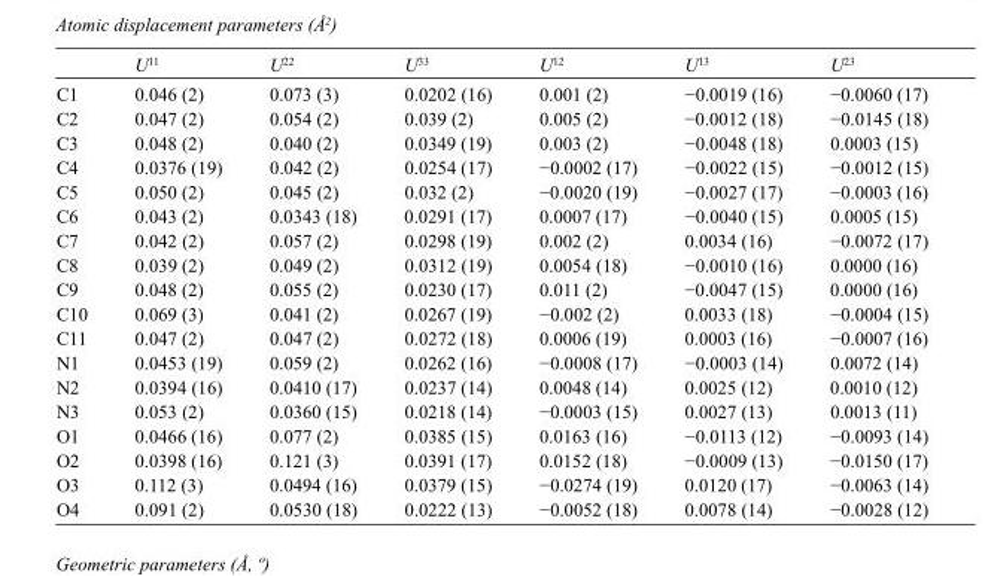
<table><thead><tr><td></td><td>U<sup>11</sup></td><td>U<sup>22</sup></td><td>U<sup>33</sup></td><td>U<sup>12</sup></td><td>U<sup>13</sup></td><td>U<sup>23</sup></td></tr></thead><tbody><tr><td>C1</td><td>0.046 (2)</td><td>0.073 (3)</td><td>0.0202 (16)</td><td>0.001 (2)</td><td>−0.0019 (16)</td><td>−0.0060 (17)</td></tr><tr><td>C2</td><td>0.047 (2)</td><td>0.054 (2)</td><td>0.039 (2)</td><td>0.005 (2)</td><td>−0.0012 (18)</td><td>−0.0145 (18)</td></tr><tr><td>C3</td><td>0.048 (2)</td><td>0.040 (2)</td><td>0.0349 (19)</td><td>0.003 (2)</td><td>−0.0048 (18)</td><td>0.0003 (15)</td></tr><tr><td>C4</td><td>0.0376 (19)</td><td>0.042 (2)</td><td>0.0254 (17)</td><td>−0.0002 (17)</td><td>−0.0022 (15)</td><td>−0.0012 (15)</td></tr><tr><td>C5</td><td>0.050 (2)</td><td>0.045 (2)</td><td>0.032 (2)</td><td>−0.0020 (19)</td><td>−0.0027 (17)</td><td>−0.0003 (16)</td></tr><tr><td>C6</td><td>0.043 (2)</td><td>0.0343 (18)</td><td>0.0291 (17)</td><td>0.0007 (17)</td><td>−0.0040 (15)</td><td>0.0005 (15)</td></tr><tr><td>C7</td><td>0.042 (2)</td><td>0.057 (2)</td><td>0.0298 (19)</td><td>0.002 (2)</td><td>0.0034 (16)</td><td>−0.0072 (17)</td></tr><tr><td>C8</td><td>0.039 (2)</td><td>0.049 (2)</td><td>0.0312 (19)</td><td>0.0054 (18)</td><td>−0.0010 (16)</td><td>0.0000 (16)</td></tr><tr><td>C9</td><td>0.048 (2)</td><td>0.055 (2)</td><td>0.0230 (17)</td><td>0.011 (2)</td><td>−0.0047 (15)</td><td>0.0000 (16)</td></tr><tr><td>C10</td><td>0.069 (3)</td><td>0.041 (2)</td><td>0.0267 (19)</td><td>−0.002 (2)</td><td>0.0033 (18)</td><td>−0.0004 (15)</td></tr><tr><td>C11</td><td>0.047 (2)</td><td>0.047 (2)</td><td>0.0272 (18)</td><td>0.0006 (19)</td><td>0.0003 (16)</td><td>−0.0007 (16)</td></tr><tr><td>N1</td><td>0.0453 (19)</td><td>0.059 (2)</td><td>0.0262 (16)</td><td>−0.0008 (17)</td><td>−0.0003 (14)</td><td>0.0072 (14)</td></tr><tr><td>N2</td><td>0.0394 (16)</td><td>0.0410 (17)</td><td>0.0237 (14)</td><td>0.0048 (14)</td><td>0.0025 (12)</td><td>0.0010 (12)</td></tr><tr><td>N3</td><td>0.053 (2)</td><td>0.0360 (15)</td><td>0.0218 (14)</td><td>−0.0003 (15)</td><td>0.0027 (13)</td><td>0.0013 (11)</td></tr><tr><td>O1</td><td>0.0466 (16)</td><td>0.077 (2)</td><td>0.0385 (15)</td><td>0.0163 (16)</td><td>−0.0113 (12)</td><td>−0.0093 (14)</td></tr><tr><td>O2</td><td>0.0398 (16)</td><td>0.121 (3)</td><td>0.0391 (17)</td><td>0.0152 (18)</td><td>−0.0009 (13)</td><td>−0.0150 (17)</td></tr><tr><td>O3</td><td>0.112 (3)</td><td>0.0494 (16)</td><td>0.0379 (15)</td><td>−0.0274 (19)</td><td>0.0120 (17)</td><td>−0.0063 (14)</td></tr><tr><td>O4</td><td>0.091 (2)</td><td>0.0530 (18)</td><td>0.0222 (13)</td><td>−0.0052 (18)</td><td>0.0078 (14)</td><td>−0.0028 (12)</td></tr></tbody></table>